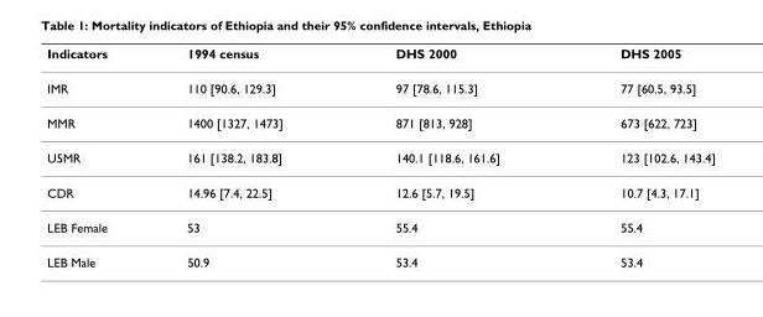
<table><thead><tr><td>Indicators</td><td>1994 census</td><td>DHS 2000</td><td>DHS 2005</td></tr></thead><tbody><tr><td>IMR</td><td>110 [90.6, 129.3]</td><td>97 [78.6, 115.3]</td><td>77 [60.5, 93.5]</td></tr><tr><td>MMR</td><td>1400 [1327, 1473]</td><td>871 [813, 928]</td><td>673 [622, 723]</td></tr><tr><td>U5MR</td><td>161 [138.2, 183.8]</td><td>140.1 [118.6, 161.6]</td><td>123 [102.6, 143.4]</td></tr><tr><td>CDR</td><td>14.96 [7.4, 22.5]</td><td>12.6 [5.7, 19.5]</td><td>10.7 [4.3, 17.1]</td></tr><tr><td>LEB Female</td><td>53</td><td>55.4</td><td>55.4</td></tr><tr><td>LEB Male</td><td>50.9</td><td>53.4</td><td>53.4</td></tr></tbody></table>